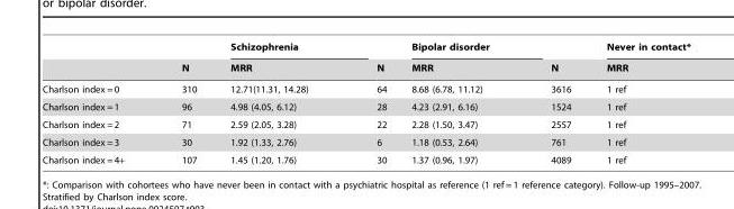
<table><thead><tr><td rowspan="2"></td><td rowspan="2">N</td><td rowspan="2">Schizophrenia MRR</td><td rowspan="2">N</td><td rowspan="2">Bipolar disorder MRR</td><td rowspan="2">N</td><td rowspan="2">Never in contact* MRR</td></tr><tr></tr></thead><tbody><tr><td>Charlson index = 0</td><td>310</td><td>12.71(11.31, 14.28)</td><td>64</td><td>8.68 (6.78, 11.12)</td><td>3616</td><td>1 ref</td></tr><tr><td>Charlson index = 1</td><td>96</td><td>4.98 (4.05, 6.12)</td><td>28</td><td>4.23 (2.91, 6.16)</td><td>1524</td><td>1 ref</td></tr><tr><td>Charlson index = 2</td><td>71</td><td>2.59 (2.05, 3.28)</td><td>22</td><td>2.28 (1.50, 3.47)</td><td>2557</td><td>1 ref</td></tr><tr><td>Charlson index = 3</td><td>30</td><td>1.92 (1.33, 2.76)</td><td>6</td><td>1.18 (0.53, 2.64)</td><td>761</td><td>1 ref</td></tr><tr><td>Charlson index = 4+</td><td>107</td><td>1.45 (1.20, 1.76)</td><td>30</td><td>1.37 (0.96, 1.97)</td><td>4089</td><td>1 ref</td></tr></tbody></table>